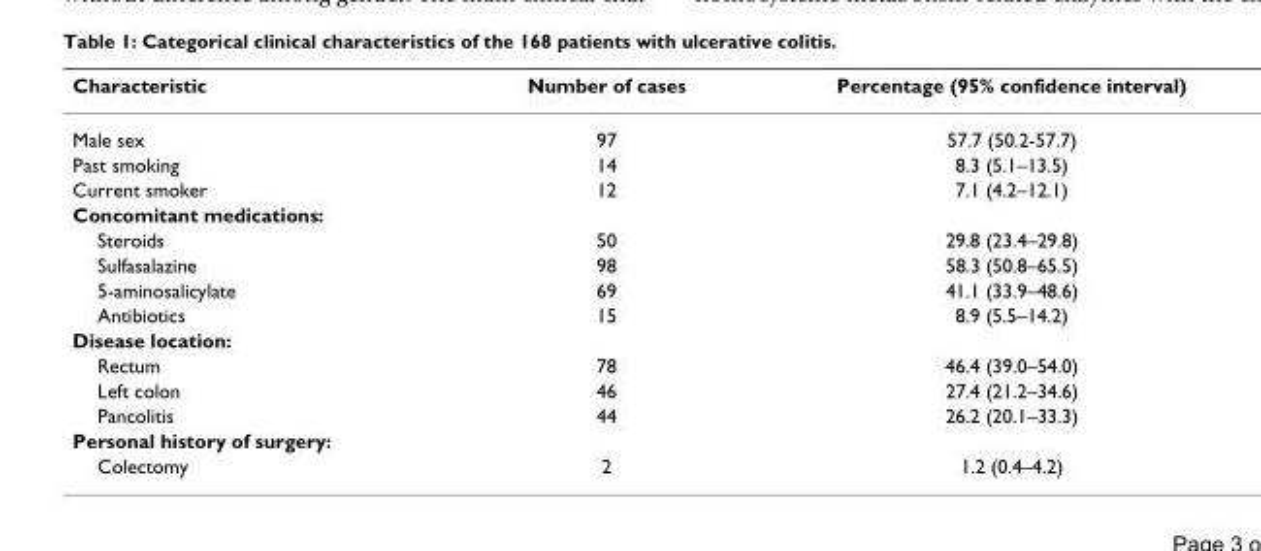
<table><thead><tr><td>Characteristic</td><td>Number of cases</td><td>Percentage (95% confidence interval)</td></tr></thead><tbody><tr><td>Male sex</td><td>97</td><td>57.7 (50.2-57.7)</td></tr><tr><td>Past smoking</td><td>14</td><td>8.3 (5.1–13.5)</td></tr><tr><td>Current smoker</td><td>12</td><td>7.1 (4.2–12.1)</td></tr><tr><td colspan="3">Concomitant medications:</td></tr><tr><td>Steroids</td><td>50</td><td>29.8 (23.4–29.8)</td></tr><tr><td>Sulfasalazine</td><td>98</td><td>58.3 (50.8–65.5)</td></tr><tr><td>5-aminosalicylate</td><td>69</td><td>41.1 (33.9–48.6)</td></tr><tr><td>Antibiotics</td><td>15</td><td>8.9 (5.5–14.2)</td></tr><tr><td colspan="3">Disease location:</td></tr><tr><td>Rectum</td><td>78</td><td>46.4 (39.0–54.0)</td></tr><tr><td>Left colon</td><td>46</td><td>27.4 (21.2–34.6)</td></tr><tr><td>Pancolitis</td><td>44</td><td>26.2 (20.1–33.3)</td></tr><tr><td colspan="3">Personal history of surgery:</td></tr><tr><td>Colectomy</td><td>2</td><td>1.2 (0.4–4.2)</td></tr></tbody></table>